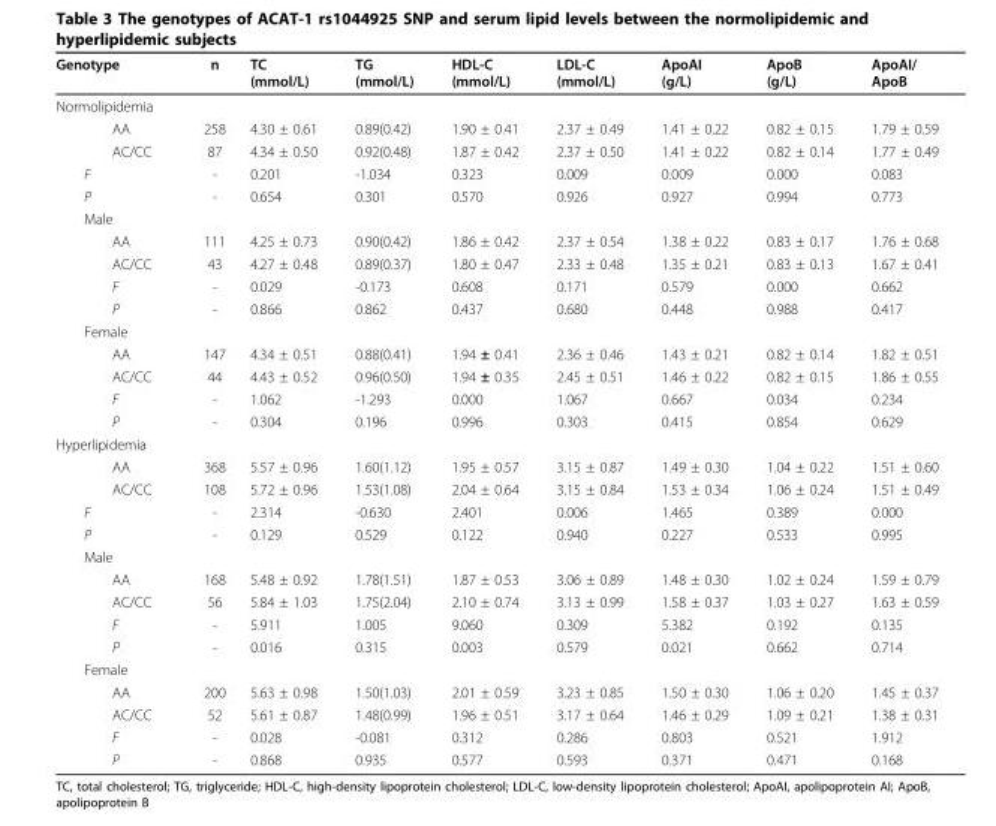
<table><thead><tr><td>Genotype</td><td>n</td><td>TC (mmol/L)</td><td>TG (mmol/L)</td><td>HDL-C (mmol/L)</td><td>LDL-C (mmol/L)</td><td>ApoAI (g/L)</td><td>ApoB (g/L)</td><td>ApoAI/ ApoB</td></tr></thead><tbody><tr><td colspan="9">Normolipidemia</td></tr><tr><td>AA</td><td>258</td><td>4.30 ± 0.61</td><td>0.89(0.42)</td><td>1.90 ± 0.41</td><td>2.37 ± 0.49</td><td>1.41 ± 0.22</td><td>0.82 ± 0.15</td><td>1.79 ± 0.59</td></tr><tr><td>AC/CC</td><td>87</td><td>4.34 ± 0.50</td><td>0.92(0.48)</td><td>1.87 ± 0.42</td><td>2.37 ± 0.50</td><td>1.41 ± 0.22</td><td>0.82 ± 0.14</td><td>1.77 ± 0.49</td></tr><tr><td>F</td><td>-</td><td>0.201</td><td>-1.034</td><td>0.323</td><td>0.009</td><td>0.009</td><td>0.000</td><td>0.083</td></tr><tr><td>P</td><td>-</td><td>0.654</td><td>0.301</td><td>0.570</td><td>0.926</td><td>0.927</td><td>0.994</td><td>0.773</td></tr><tr><td colspan="9">Male</td></tr><tr><td>AA</td><td>111</td><td>4.25 ± 0.73</td><td>0.90(0.42)</td><td>1.86 ± 0.42</td><td>2.37 ± 0.54</td><td>1.38 ± 0.22</td><td>0.83 ± 0.17</td><td>1.76 ± 0.68</td></tr><tr><td>AC/CC</td><td>43</td><td>4.27 ± 0.48</td><td>0.89(0.37)</td><td>1.80 ± 0.47</td><td>2.33 ± 0.48</td><td>1.35 ± 0.21</td><td>0.83 ± 0.13</td><td>1.67 ± 0.41</td></tr><tr><td>F</td><td>-</td><td>0.029</td><td>-0.173</td><td>0.608</td><td>0.171</td><td>0.579</td><td>0.000</td><td>0.662</td></tr><tr><td>P</td><td>-</td><td>0.866</td><td>0.862</td><td>0.437</td><td>0.680</td><td>0.448</td><td>0.988</td><td>0.417</td></tr><tr><td colspan="9">Female</td></tr><tr><td>AA</td><td>147</td><td>4.34 ± 0.51</td><td>0.88(0.41)</td><td>1.94 ± 0.41</td><td>2.36 ± 0.46</td><td>1.43 ± 0.21</td><td>0.82 ± 0.14</td><td>1.82 ± 0.51</td></tr><tr><td>AC/CC</td><td>44</td><td>4.43 ± 0.52</td><td>0.96(0.50)</td><td>1.94 ± 0.35</td><td>2.45 ± 0.51</td><td>1.46 ± 0.22</td><td>0.82 ± 0.15</td><td>1.86 ± 0.55</td></tr><tr><td>F</td><td>-</td><td>1.062</td><td>-1.293</td><td>0.000</td><td>1.067</td><td>0.667</td><td>0.034</td><td>0.234</td></tr><tr><td>P</td><td>-</td><td>0.304</td><td>0.196</td><td>0.996</td><td>0.303</td><td>0.415</td><td>0.854</td><td>0.629</td></tr><tr><td colspan="9">Hyperlipidemia</td></tr><tr><td>AA</td><td>368</td><td>5.57 ± 0.96</td><td>1.60(1.12)</td><td>1.95 ± 0.57</td><td>3.15 ± 0.87</td><td>1.49 ± 0.30</td><td>1.04 ± 0.22</td><td>1.51 ± 0.60</td></tr><tr><td>AC/CC</td><td>108</td><td>5.72 ± 0.96</td><td>1.53(1.08)</td><td>2.04 ± 0.64</td><td>3.15 ± 0.84</td><td>1.53 ± 0.34</td><td>1.06 ± 0.24</td><td>1.51 ± 0.49</td></tr><tr><td>F</td><td>-</td><td>2.314</td><td>-0.630</td><td>2.401</td><td>0.006</td><td>1.465</td><td>0.389</td><td>0.000</td></tr><tr><td>P</td><td>-</td><td>0.129</td><td>0.529</td><td>0.122</td><td>0.940</td><td>0.227</td><td>0.533</td><td>0.995</td></tr><tr><td colspan="9">Male</td></tr><tr><td>AA</td><td>168</td><td>5.48 ± 0.92</td><td>1.78(1.51)</td><td>1.87 ± 0.53</td><td>3.06 ± 0.89</td><td>1.48 ± 0.30</td><td>1.02 ± 0.24</td><td>1.59 ± 0.79</td></tr><tr><td>AC/CC</td><td>56</td><td>5.84 ± 1.03</td><td>1.75(2.04)</td><td>2.10 ± 0.74</td><td>3.13 ± 0.99</td><td>1.58 ± 0.37</td><td>1.03 ± 0.27</td><td>1.63 ± 0.59</td></tr><tr><td>F</td><td>-</td><td>5.911</td><td>1.005</td><td>9.060</td><td>0.309</td><td>5.382</td><td>0.192</td><td>0.135</td></tr><tr><td>P</td><td>-</td><td>0.016</td><td>0.315</td><td>0.003</td><td>0.579</td><td>0.021</td><td>0.662</td><td>0.714</td></tr><tr><td colspan="9">Female</td></tr><tr><td>AA</td><td>200</td><td>5.63 ± 0.98</td><td>1.50(1.03)</td><td>2.01 ± 0.59</td><td>3.23 ± 0.85</td><td>1.50 ± 0.30</td><td>1.06 ± 0.20</td><td>1.45 ± 0.37</td></tr><tr><td>AC/CC</td><td>52</td><td>5.61 ± 0.87</td><td>1.48(0.99)</td><td>1.96 ± 0.51</td><td>3.17 ± 0.64</td><td>1.46 ± 0.29</td><td>1.09 ± 0.21</td><td>1.38 ± 0.31</td></tr><tr><td>F</td><td>-</td><td>0.028</td><td>-0.081</td><td>0.312</td><td>0.286</td><td>0.803</td><td>0.521</td><td>1.912</td></tr><tr><td>P</td><td>-</td><td>0.868</td><td>0.935</td><td>0.577</td><td>0.593</td><td>0.371</td><td>0.471</td><td>0.168</td></tr></tbody></table>